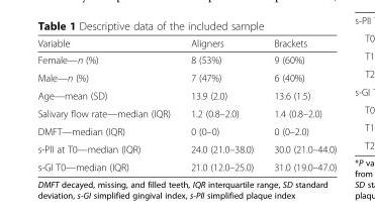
<table><thead><tr><td>Variable</td><td>Aligners</td><td>Brackets</td></tr></thead><tbody><tr><td>Female—n (%)</td><td>8 (53%)</td><td>9 (60%)</td></tr><tr><td>Male—n (%)</td><td>7 (47%)</td><td>6 (40%)</td></tr><tr><td>Age—mean (SD)</td><td>13.9 (2.0)</td><td>13.6 (1.5)</td></tr><tr><td>Salivary flow rate—median (IQR)</td><td>1.2 (0.8–2.0)</td><td>1.4 (0.8–2.0)</td></tr><tr><td>DMFT—median (IQR)</td><td>0 (0–0)</td><td>0 (0–2.0)</td></tr><tr><td>s-PlI at T0—median (IQR)</td><td>24.0 (21.0–38.0)</td><td>30.0 (21.0–44.0)</td></tr><tr><td>s-GI T0—median (IQR)</td><td>21.0 (12.0–25.0)</td><td>31.0 (19.0–47.0)</td></tr></tbody></table>